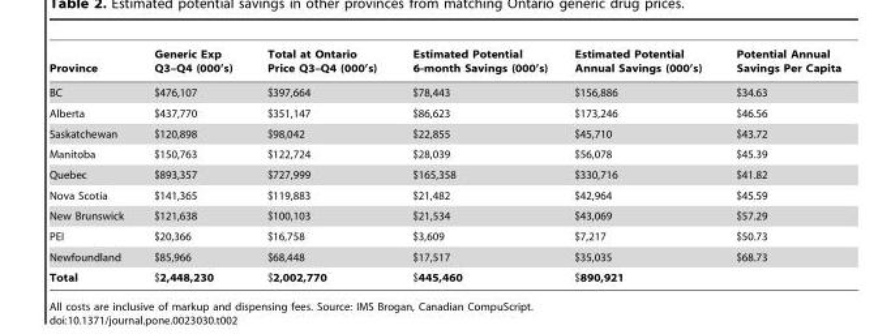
<table><thead><tr><td>Province</td><td>Generic Exp Q3–Q4 (000’s)</td><td>Total at Ontario Price Q3–Q4 (000’s)</td><td>Estimated Potential 6-month Savings (000’s)</td><td>Estimated Potential Annual Savings (000’s)</td><td>Potential Annual Savings Per Capita</td></tr></thead><tbody><tr><td>BC</td><td>$476,107</td><td>$397,664</td><td>$78,443</td><td>$156,886</td><td>$34.63</td></tr><tr><td>Alberta</td><td>$437,770</td><td>$351,147</td><td>$86,623</td><td>$173,246</td><td>$46.56</td></tr><tr><td>Saskatchewan</td><td>$120,898</td><td>$98,042</td><td>$22,855</td><td>$45,710</td><td>$43.72</td></tr><tr><td>Manitoba</td><td>$150,763</td><td>$122,724</td><td>$28,039</td><td>$56,078</td><td>$45.39</td></tr><tr><td>Quebec</td><td>$893,357</td><td>$727,999</td><td>$165,358</td><td>$330,716</td><td>$41.82</td></tr><tr><td>Nova Scotia</td><td>$141,365</td><td>$119,883</td><td>$21,482</td><td>$42,964</td><td>$45.59</td></tr><tr><td>New Brunswick</td><td>$121,638</td><td>$100,103</td><td>$21,534</td><td>$43,069</td><td>$57.29</td></tr><tr><td>PEI</td><td>$20,366</td><td>$16,758</td><td>$3,609</td><td>$7,217</td><td>$50.73</td></tr><tr><td>Newfoundland</td><td>$85,966</td><td>$68,448</td><td>$17,517</td><td>$35,035</td><td>$68.73</td></tr><tr><td>Total</td><td>$2,448,230</td><td>$2,002,770</td><td>$445,460</td><td>$890,921</td><td></td></tr></tbody></table>